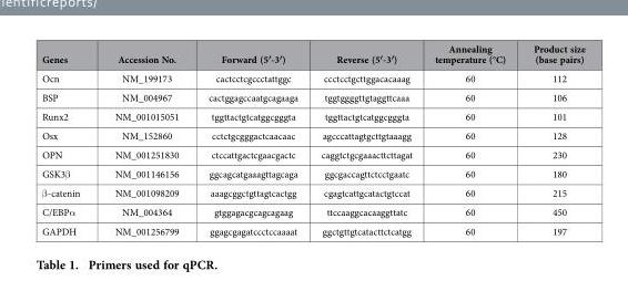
<table><thead><tr><td>Genes</td><td>Accession No.</td><td>Forward (5′-3′)</td><td>Reverse (5′-3′)</td><td>Annealing temperature (°C)</td><td>Product size (base pairs)</td></tr></thead><tbody><tr><td>Ocn</td><td>NM_199173</td><td>cactcctcgccctattggc</td><td>ccctcctgcttggacacaaag</td><td>60</td><td>112</td></tr><tr><td>BSP</td><td>NM_004967</td><td>cactggagccaatgcagaaga</td><td>tggtggggttgtaggttcaaa</td><td>60</td><td>106</td></tr><tr><td>Runx2</td><td>NM_001015051</td><td>tggttactgtcatggcgggta</td><td>tggttactgtcatggcgggta</td><td>60</td><td>101</td></tr><tr><td>Osx</td><td>NM_152860</td><td>cctctgcgggactcaacaac</td><td>agcccattagtgcttgtaaagg</td><td>60</td><td>128</td></tr><tr><td>OPN</td><td>NM_001251830</td><td>ctccattgactcgaacgactc</td><td>caggtctgcgaaacttcttagat</td><td>60</td><td>230</td></tr><tr><td>GSK3β</td><td>NM_001146156</td><td>ggcagcatgaaagttagcaga</td><td>ggcgaccagttctcctgaatc</td><td>60</td><td>180</td></tr><tr><td>β -catenin</td><td>NM_001098209</td><td>aaagcggctgttagtcactgg</td><td>cgagtcattgcatactgtccat</td><td>60</td><td>215</td></tr><tr><td>C/EBPα</td><td>NM_004364</td><td>gtggagacgcagcagaag</td><td>ttccaaggcacaaggttatc</td><td>60</td><td>450</td></tr><tr><td>GAPDH</td><td>NM_001256799</td><td>ggagcgagatccctccaaaat</td><td>ggctgttgtcatacttctcatgg</td><td>60</td><td>197</td></tr></tbody></table>